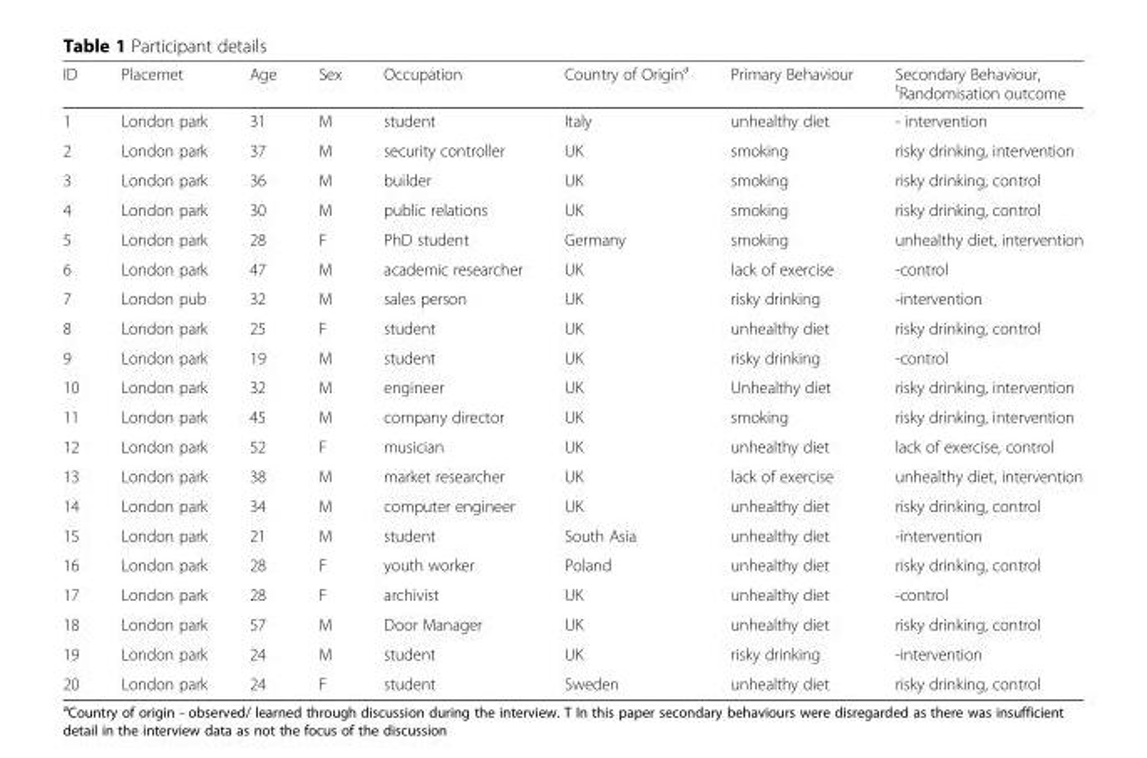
<table><thead><tr><td>ID</td><td>Placemet</td><td>Age</td><td>Sex</td><td>Occupation</td><td>Country of Origin<sup>a</sup></td><td>Primary Behaviour</td><td>Secondary Behaviour, <sup>t</sup>Randomisation outcome</td></tr></thead><tbody><tr><td>1</td><td>London park</td><td>31</td><td>M</td><td>student</td><td>Italy</td><td>unhealthy diet</td><td>- intervention</td></tr><tr><td>2</td><td>London park</td><td>37</td><td>M</td><td>security controller</td><td>UK</td><td>smoking</td><td>risky drinking, intervention</td></tr><tr><td>3</td><td>London park</td><td>36</td><td>M</td><td>builder</td><td>UK</td><td>smoking</td><td>risky drinking, control</td></tr><tr><td>4</td><td>London park</td><td>30</td><td>M</td><td>public relations</td><td>UK</td><td>smoking</td><td>risky drinking, control</td></tr><tr><td>5</td><td>London park</td><td>28</td><td>F</td><td>PhD student</td><td>Germany</td><td>smoking</td><td>unhealthy diet, intervention</td></tr><tr><td>6</td><td>London park</td><td>47</td><td>M</td><td>academic researcher</td><td>UK</td><td>lack of exercise</td><td>-control</td></tr><tr><td>7</td><td>London pub</td><td>32</td><td>M</td><td>sales person</td><td>UK</td><td>risky drinking</td><td>-intervention</td></tr><tr><td>8</td><td>London park</td><td>25</td><td>F</td><td>student</td><td>UK</td><td>unhealthy diet</td><td>risky drinking, control</td></tr><tr><td>9</td><td>London park</td><td>19</td><td>M</td><td>student</td><td>UK</td><td>risky drinking</td><td>-control</td></tr><tr><td>10</td><td>London park</td><td>32</td><td>M</td><td>engineer</td><td>UK</td><td>Unhealthy diet</td><td>risky drinking, intervention</td></tr><tr><td>11</td><td>London park</td><td>45</td><td>M</td><td>company director</td><td>UK</td><td>smoking</td><td>risky drinking, intervention</td></tr><tr><td>12</td><td>London park</td><td>52</td><td>F</td><td>musician</td><td>UK</td><td>unhealthy diet</td><td>lack of exercise, control</td></tr><tr><td>13</td><td>London park</td><td>38</td><td>M</td><td>market researcher</td><td>UK</td><td>lack of exercise</td><td>unhealthy diet, intervention</td></tr><tr><td>14</td><td>London park</td><td>34</td><td>M</td><td>computer engineer</td><td>UK</td><td>unhealthy diet</td><td>risky drinking, control</td></tr><tr><td>15</td><td>London park</td><td>21</td><td>M</td><td>student</td><td>South Asia</td><td>unhealthy diet</td><td>-intervention</td></tr><tr><td>16</td><td>London park</td><td>28</td><td>F</td><td>youth worker</td><td>Poland</td><td>unhealthy diet</td><td>risky drinking, control</td></tr><tr><td>17</td><td>London park</td><td>28</td><td>F</td><td>archivist</td><td>UK</td><td>unhealthy diet</td><td>-control</td></tr><tr><td>18</td><td>London park</td><td>57</td><td>M</td><td>Door Manager</td><td>UK</td><td>unhealthy diet</td><td>risky drinking, control</td></tr><tr><td>19</td><td>London park</td><td>24</td><td>M</td><td>student</td><td>UK</td><td>risky drinking</td><td>-intervention</td></tr><tr><td>20</td><td>London park</td><td>24</td><td>F</td><td>student</td><td>Sweden</td><td>unhealthy diet</td><td>risky drinking, control</td></tr></tbody></table>